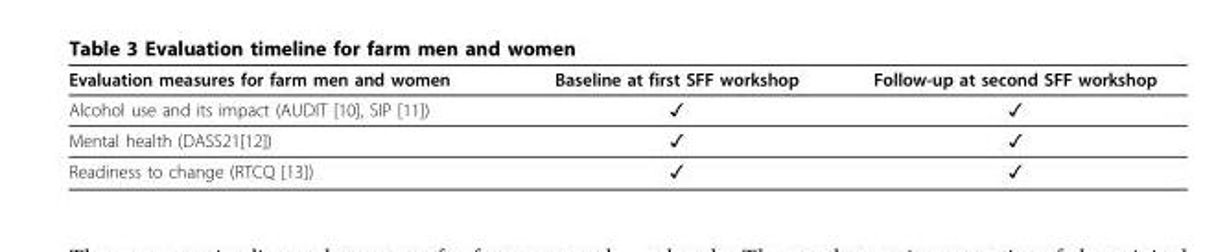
<table><thead><tr><td>Evaluation measures for farm men and women</td><td>Baseline at first SFF workshop</td><td>Follow-up at second SFF workshop</td></tr></thead><tbody><tr><td>Alcohol use and its impact (AUDIT [10], SIP [11])</td><td>✓</td><td>✓</td></tr><tr><td>Mental health (DASS21[12])</td><td>✓</td><td>✓</td></tr><tr><td>Readiness to change (RTCQ [13])</td><td>✓</td><td>✓</td></tr></tbody></table>